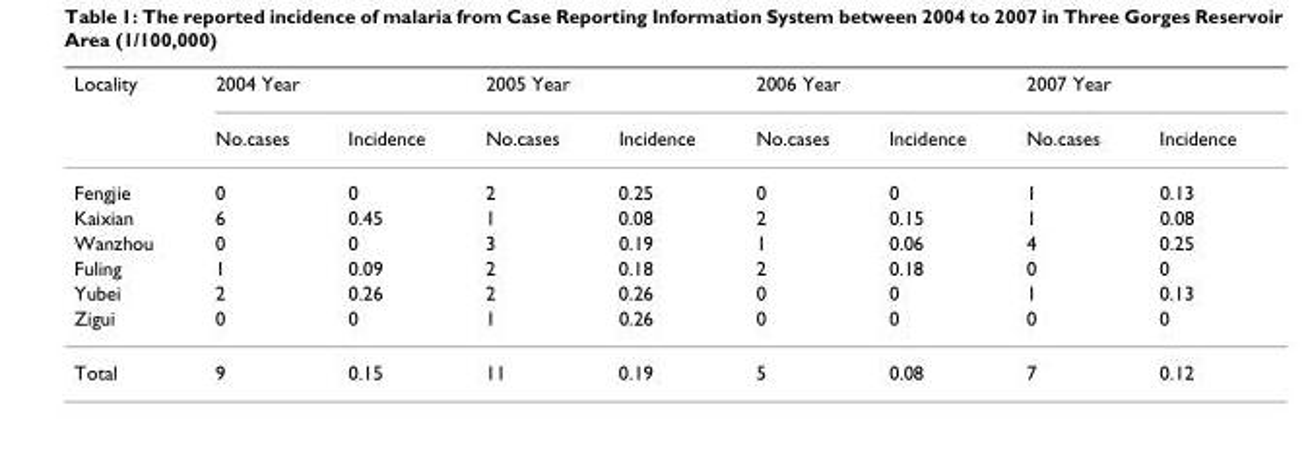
<table><thead><tr><td rowspan="2">Locality</td><td colspan="2">2004 Year</td><td colspan="2">2005 Year</td><td colspan="2">2006 Year</td><td colspan="2">2007 Year</td></tr><tr><td>No.cases</td><td>Incidence</td><td>No.cases</td><td>Incidence</td><td>No.cases</td><td>Incidence</td><td>No.cases</td><td>Incidence</td></tr></thead><tbody><tr><td>Fengjie</td><td>0</td><td>0</td><td>2</td><td>0.25</td><td>0</td><td>0</td><td>1</td><td>0.13</td></tr><tr><td>Kaixian</td><td>6</td><td>0.45</td><td>1</td><td>0.08</td><td>2</td><td>0.15</td><td>1</td><td>0.08</td></tr><tr><td>Wanzhou</td><td>0</td><td>0</td><td>3</td><td>0.19</td><td>1</td><td>0.06</td><td>4</td><td>0.25</td></tr><tr><td>Fuling</td><td>1</td><td>0.09</td><td>2</td><td>0.18</td><td>2</td><td>0.18</td><td>0</td><td>0</td></tr><tr><td>Yubei</td><td>2</td><td>0.26</td><td>2</td><td>0.26</td><td>0</td><td>0</td><td>1</td><td>0.13</td></tr><tr><td>Zigui</td><td>0</td><td>0</td><td>1</td><td>0.26</td><td>0</td><td>0</td><td>0</td><td>0</td></tr><tr><td>Total</td><td>9</td><td>0.15</td><td>11</td><td>0.19</td><td>5</td><td>0.08</td><td>7</td><td>0.12</td></tr></tbody></table>